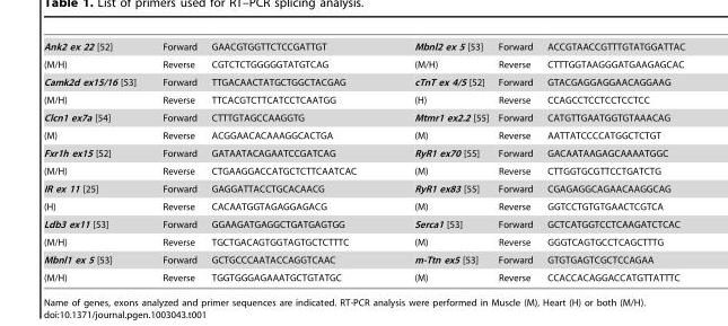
<table><tbody><tr><td>Ank2 ex 22 [52]</td><td>Forward</td><td>GAACGTGGTTCTCCGATTGT</td><td>Mbnl2 ex 5 [53]</td><td>Forward</td><td>ACCGTAACCGTTTGTATGGATTAC</td></tr><tr><td>(M/H)</td><td>Reverse</td><td>CGTCTCTGGGGGTATGTCAG</td><td>(M/H)</td><td>Reverse</td><td>CTTTGGTAAGGGATGAAGAGCAC</td></tr><tr><td>Camk2d ex15/16 [53]</td><td>Forward</td><td>TTGACAACTATGCTGGCTACGAG</td><td>cTnT ex 4/5 [52]</td><td>Forward</td><td>GTACGAGGAGGAACAGGAAG</td></tr><tr><td>(M/H)</td><td>Reverse</td><td>TTCACGTCTTCATCCTCAATGG</td><td>(H)</td><td>Reverse</td><td>CCAGCCTCCTCCTCCTCC</td></tr><tr><td>Clcn1 ex7a [54]</td><td>Forward</td><td>CTTTGTAGCCAAGGTG</td><td>Mtmr1 ex2.2 [55]</td><td>Forward</td><td>CATGTTGAATGGTGTAAACAG</td></tr><tr><td>(M)</td><td>Reverse</td><td>ACGGAACACAAAGGCACTGA</td><td>(M)</td><td>Reverse</td><td>AATTATCCCCATGGCTCTGT</td></tr><tr><td>Fxr1h ex15 [52]</td><td>Forward</td><td>GATAATACAGAATCCGATCAG</td><td>RyR1 ex70 [55]</td><td>Forward</td><td>GACAATAAGAGCAAAATGGC</td></tr><tr><td>(M/H)</td><td>Reverse</td><td>CTGAAGGACCATGCTCTTCAATCAC</td><td>(M)</td><td>Reverse</td><td>CTTGGTGCGTTCCTGATCTG</td></tr><tr><td>IR ex 11 [25]</td><td>Forward</td><td>GAGGATTACCTGCACAACG</td><td>RyR1 ex83 [55]</td><td>Forward</td><td>CGAGAGGCAGAACAAGGCAG</td></tr><tr><td>(H)</td><td>Reverse</td><td>CACAATGGTAGAGGAGACG</td><td>(M)</td><td>Reverse</td><td>GGTCCTGTGTGAACTCGTCA</td></tr><tr><td>Ldb3 ex11 [53]</td><td>Forward</td><td>GGAAGATGAGGCTGATGAGTGG</td><td>Serca1 [53]</td><td>Forward</td><td>GCTCATGGTCCTCAAGATCTCAC</td></tr><tr><td>(M/H)</td><td>Reverse</td><td>TGCTGACAGTGGTAGTGCTCTTTC</td><td>(M)</td><td>Reverse</td><td>GGGTCAGTGCCTCAGCTTTG</td></tr><tr><td>Mbnl1 ex 5 [53]</td><td>Forward</td><td>GCTGCCCAATACCAGGTCAAC</td><td>m-Ttn ex5 [53]</td><td>Forward</td><td>GTGTGAGTCGCTCCAGAA</td></tr><tr><td>(M/H)</td><td>Reverse</td><td>TGGTGGGAGAAATGCTGTATGC</td><td>(M)</td><td>Reverse</td><td>CCACCACAGGACCATGTTATTTC</td></tr></tbody></table>